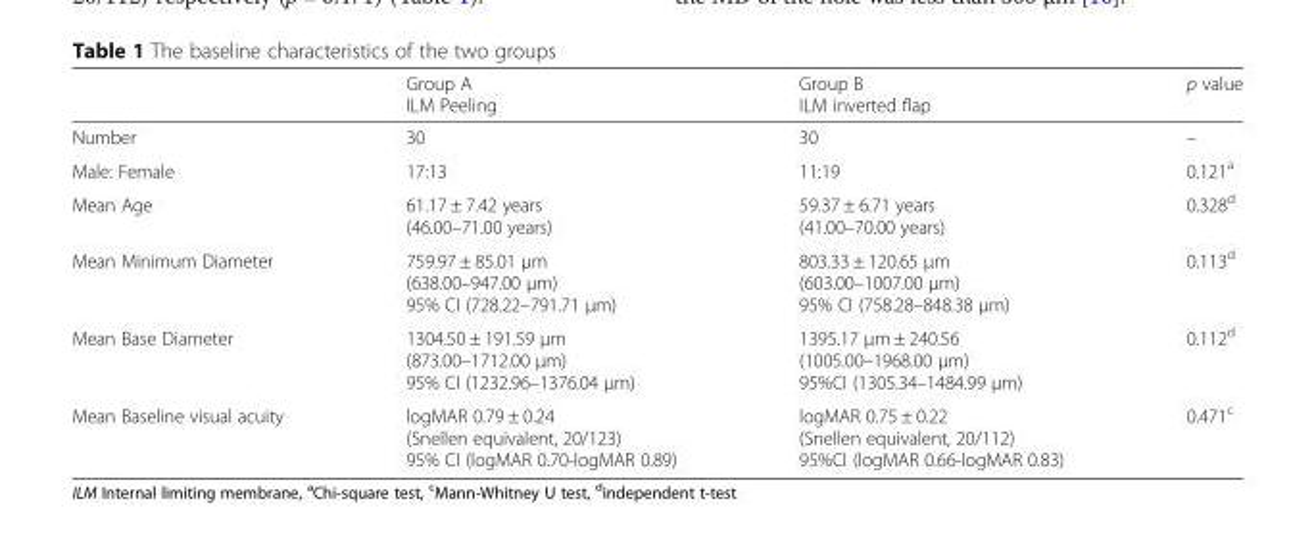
<table><thead><tr><td></td><td>Group A ILM Peeling</td><td>Group B ILM inverted flap</td><td>p value</td></tr></thead><tbody><tr><td>Number</td><td>30</td><td>30</td><td>–</td></tr><tr><td>Male: Female</td><td>17:13</td><td>11:19</td><td>0.121<sup>a</sup></td></tr><tr><td>Mean Age</td><td>61.17 ± 7.42 years (46.00–71.00 years)</td><td>59.37 ± 6.71 years (41.00–70.00 years)</td><td>0.328<sup>d</sup></td></tr><tr><td>Mean Minimum Diameter</td><td>759.97 ± 85.01 μm (638.00–947.00 μm) 95% CI (728.22–791.71 μm)</td><td>803.33 ± 120.65 μm (603.00–1007.00 μm) 95% CI (758.28–848.38 μm)</td><td>0.113<sup>d</sup></td></tr><tr><td>Mean Base Diameter</td><td>1304.50 ± 191.59 μm (873.00–1712.00 μm) 95% CI (1232.96–1376.04 μm)</td><td>1395.17 μm ± 240.56 (1005.00–1968.00 μm) 95%CI (1305.34–1484.99 μm)</td><td>0.112<sup>d</sup></td></tr><tr><td>Mean Baseline visual acuity</td><td>logMAR 0.79 ± 0.24 (Snellen equivalent, 20/123) 95% CI (logMAR 0.70-logMAR 0.89)</td><td>logMAR 0.75 ± 0.22 (Snellen equivalent, 20/112) 95%CI (logMAR 0.66-logMAR 0.83)</td><td>0.471<sup>c</sup></td></tr></tbody></table>